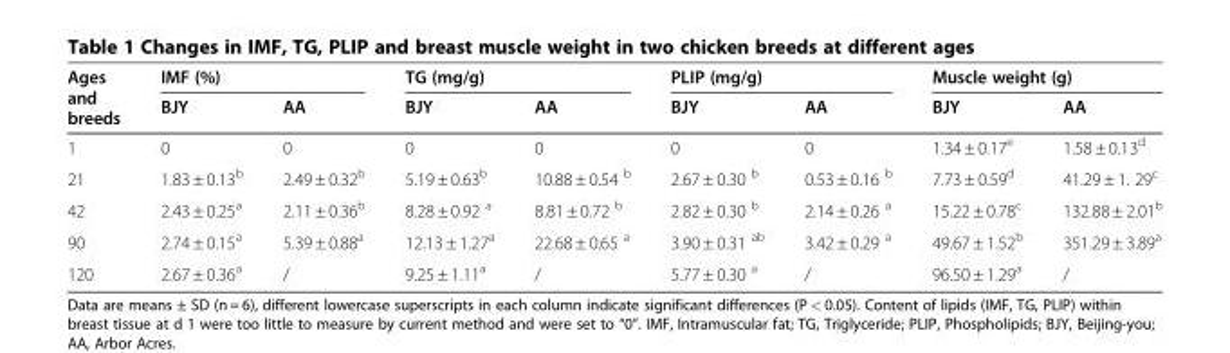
<table><thead><tr><td rowspan="2">Ages and breeds</td><td colspan="2">IMF (%)</td><td colspan="2">TG (mg/g)</td><td colspan="2">PLIP (mg/g)</td><td colspan="2">Muscle weight (g)</td></tr><tr><td>BJY</td><td>AA</td><td>BJY</td><td>AA</td><td>BJY</td><td>AA</td><td>BJY</td><td>AA</td></tr></thead><tbody><tr><td>1</td><td>0</td><td>0</td><td>0</td><td>0</td><td>0</td><td>0</td><td>1.34 ± 0.17<sup>e</sup></td><td>1.58 ± 0.13<sup>d</sup></td></tr><tr><td>21</td><td>1.83 ± 0.13<sup>b</sup></td><td>2.49 ± 0.32<sup>b</sup></td><td>5.19 ± 0.63<sup>b</sup></td><td>10.88 ± 0.54 <sup>b</sup></td><td>2.67 ± 0.30 <sup>b</sup></td><td>0.53 ± 0.16 <sup>b</sup></td><td>7.73 ± 0.59<sup>d</sup></td><td>41.29 ± 1. 29<sup>c</sup></td></tr><tr><td>42</td><td>2.43 ± 0.25<sup>a</sup></td><td>2.11 ± 0.36<sup>b</sup></td><td>8.28 ± 0.92 <sup>a</sup></td><td>8.81 ± 0.72 <sup>b</sup></td><td>2.82 ± 0.30 <sup>b</sup></td><td>2.14 ± 0.26 <sup>a</sup></td><td>15.22 ± 0.78<sup>c</sup></td><td>132.88 ± 2.01<sup>b</sup></td></tr><tr><td>90</td><td>2.74 ± 0.15<sup>a</sup></td><td>5.39 ± 0.88<sup>a</sup></td><td>12.13 ± 1.27<sup>a</sup></td><td>22.68 ± 0.65 <sup>a</sup></td><td>3.90 ± 0.31 <sup>ab</sup></td><td>3.42 ± 0.29 <sup>a</sup></td><td>49.67 ± 1.52<sup>b</sup></td><td>351.29 ± 3.89<sup>a</sup></td></tr><tr><td>120</td><td>2.67 ± 0.36<sup>a</sup></td><td>/</td><td>9.25 ± 1.11<sup>a</sup></td><td>/</td><td>5.77 ± 0.30 <sup>a</sup></td><td>/</td><td>96.50 ± 1.29<sup>a</sup></td><td>/</td></tr></tbody></table>